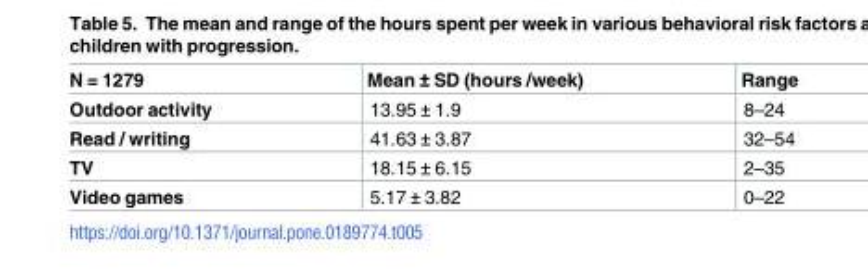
<table><thead><tr><td>N = 1279</td><td>Mean ± SD (hours /week)</td><td>Range</td></tr></thead><tbody><tr><td>Outdoor activity</td><td>13.95 ± 1.9</td><td>8–24</td></tr><tr><td>Read / writing</td><td>41.63 ± 3.87</td><td>32–54</td></tr><tr><td>TV</td><td>18.15 ± 6.15</td><td>2–35</td></tr><tr><td>Video games</td><td>5.17 ± 3.82</td><td>0–22</td></tr></tbody></table>